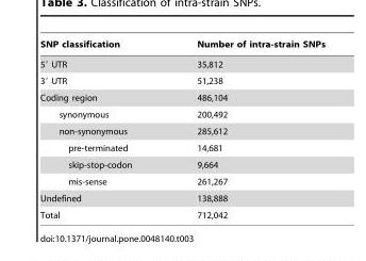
<table><thead><tr><td>SNP classification</td><td>Number of intra-strain SNPs</td></tr></thead><tbody><tr><td>5′ UTR</td><td>35,812</td></tr><tr><td>3′ UTR</td><td>51,238</td></tr><tr><td>Coding region</td><td>486,104</td></tr><tr><td>synonymous</td><td>200,492</td></tr><tr><td>non-synonymous</td><td>285,612</td></tr><tr><td>pre-terminated</td><td>14,681</td></tr><tr><td>skip-stop-codon</td><td>9,664</td></tr><tr><td>mis-sense</td><td>261,267</td></tr><tr><td>Undefined</td><td>138,888</td></tr><tr><td>Total</td><td>712,042</td></tr></tbody></table>